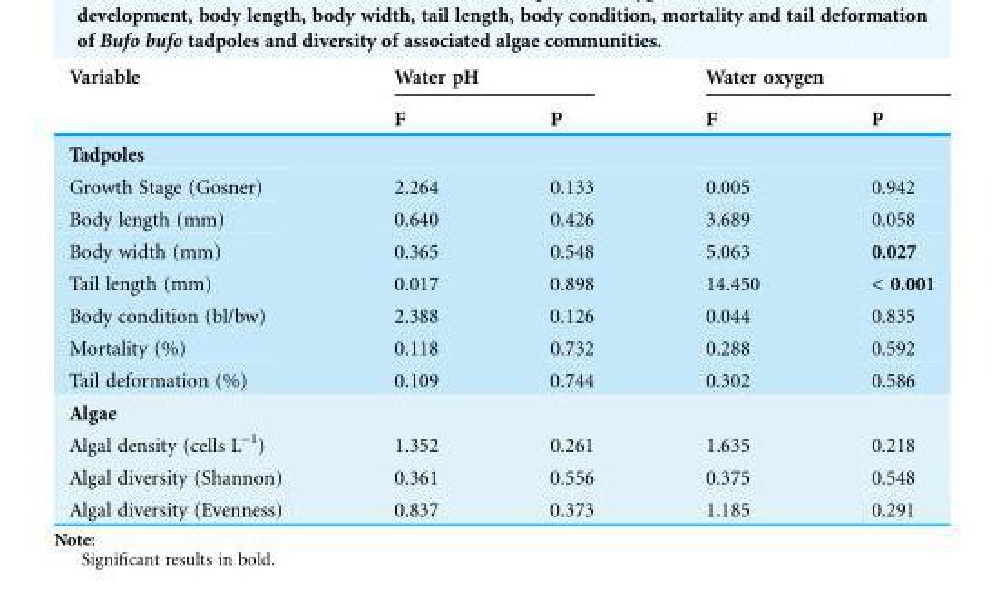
<table><thead><tr><td rowspan="2">Variable</td><td colspan="2">Water pH</td><td colspan="2">Water oxygen</td></tr><tr><td>F</td><td>P</td><td>F</td><td>P</td></tr></thead><tbody><tr><td colspan="5">Tadpoles</td></tr><tr><td>Growth Stage (Gosner)</td><td>2.264</td><td>0.133</td><td>0.005</td><td>0.942</td></tr><tr><td>Body length (mm)</td><td>0.640</td><td>0.426</td><td>3.689</td><td>0.058</td></tr><tr><td>Body width (mm)</td><td>0.365</td><td>0.548</td><td>5.063</td><td>0.027</td></tr><tr><td>Tail length (mm)</td><td>0.017</td><td>0.898</td><td>14.450</td><td>&lt; 0.001</td></tr><tr><td>Body condition (bl/bw)</td><td>2.388</td><td>0.126</td><td>0.044</td><td>0.835</td></tr><tr><td>Mortality (%)</td><td>0.118</td><td>0.732</td><td>0.288</td><td>0.592</td></tr><tr><td>Tail deformation (%)</td><td>0.109</td><td>0.744</td><td>0.302</td><td>0.586</td></tr><tr><td colspan="5">Algae</td></tr><tr><td>Algal density (cells L<sup>-1</sup>)</td><td>1.352</td><td>0.261</td><td>1.635</td><td>0.218</td></tr><tr><td>Algal diversity (Shannon)</td><td>0.361</td><td>0.556</td><td>0.375</td><td>0.548</td></tr><tr><td>Algal diversity (Evenness)</td><td>0.837</td><td>0.373</td><td>1.185</td><td>0.291</td></tr></tbody></table>